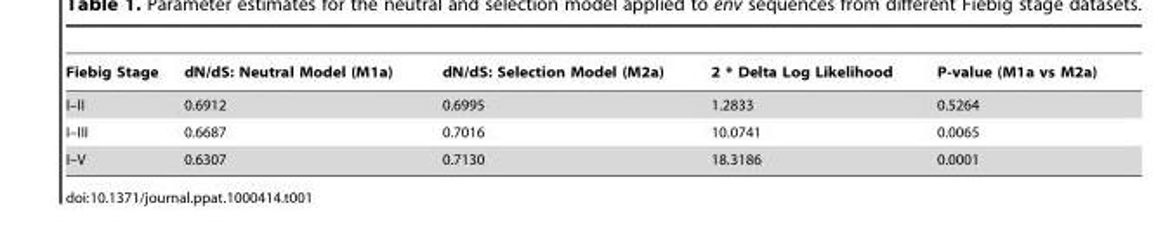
<table><thead><tr><td>Fiebig Stage</td><td>dN/dS: Neutral Model (M1a)</td><td>dN/dS: Selection Model (M2a)</td><td>2 * Delta Log Likelihood</td><td>P-value (M1a vs M2a)</td></tr></thead><tbody><tr><td>I–II</td><td>0.6912</td><td>0.6995</td><td>1.2833</td><td>0.5264</td></tr><tr><td>I–III</td><td>0.6687</td><td>0.7016</td><td>10.0741</td><td>0.0065</td></tr><tr><td>I–V</td><td>0.6307</td><td>0.7130</td><td>18.3186</td><td>0.0001</td></tr></tbody></table>